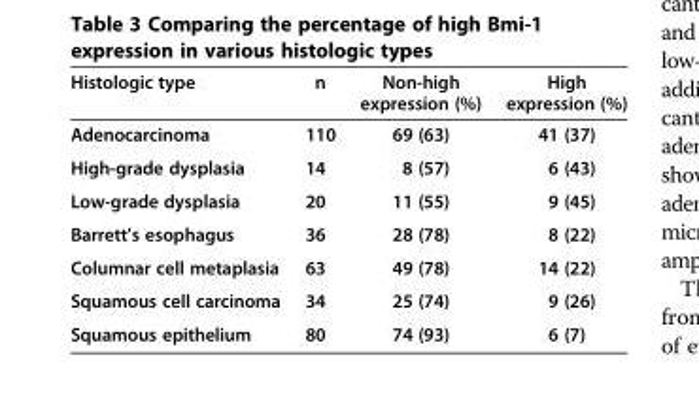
<table><thead><tr><td>Histologic type</td><td>n</td><td>Non-high expression (%)</td><td>High expression (%)</td></tr></thead><tbody><tr><td>Adenocarcinoma</td><td>110</td><td>69 (63)</td><td>41 (37)</td></tr><tr><td>High-grade dysplasia</td><td>14</td><td>8 (57)</td><td>6 (43)</td></tr><tr><td>Low-grade dysplasia</td><td>20</td><td>11 (55)</td><td>9 (45)</td></tr><tr><td>Barrett’s esophagus</td><td>36</td><td>28 (78)</td><td>8 (22)</td></tr><tr><td>Columnar cell metaplasia</td><td>63</td><td>49 (78)</td><td>14 (22)</td></tr><tr><td>Squamous cell carcinoma</td><td>34</td><td>25 (74)</td><td>9 (26)</td></tr><tr><td>Squamous epithelium</td><td>80</td><td>74 (93)</td><td>6 (7)</td></tr></tbody></table>